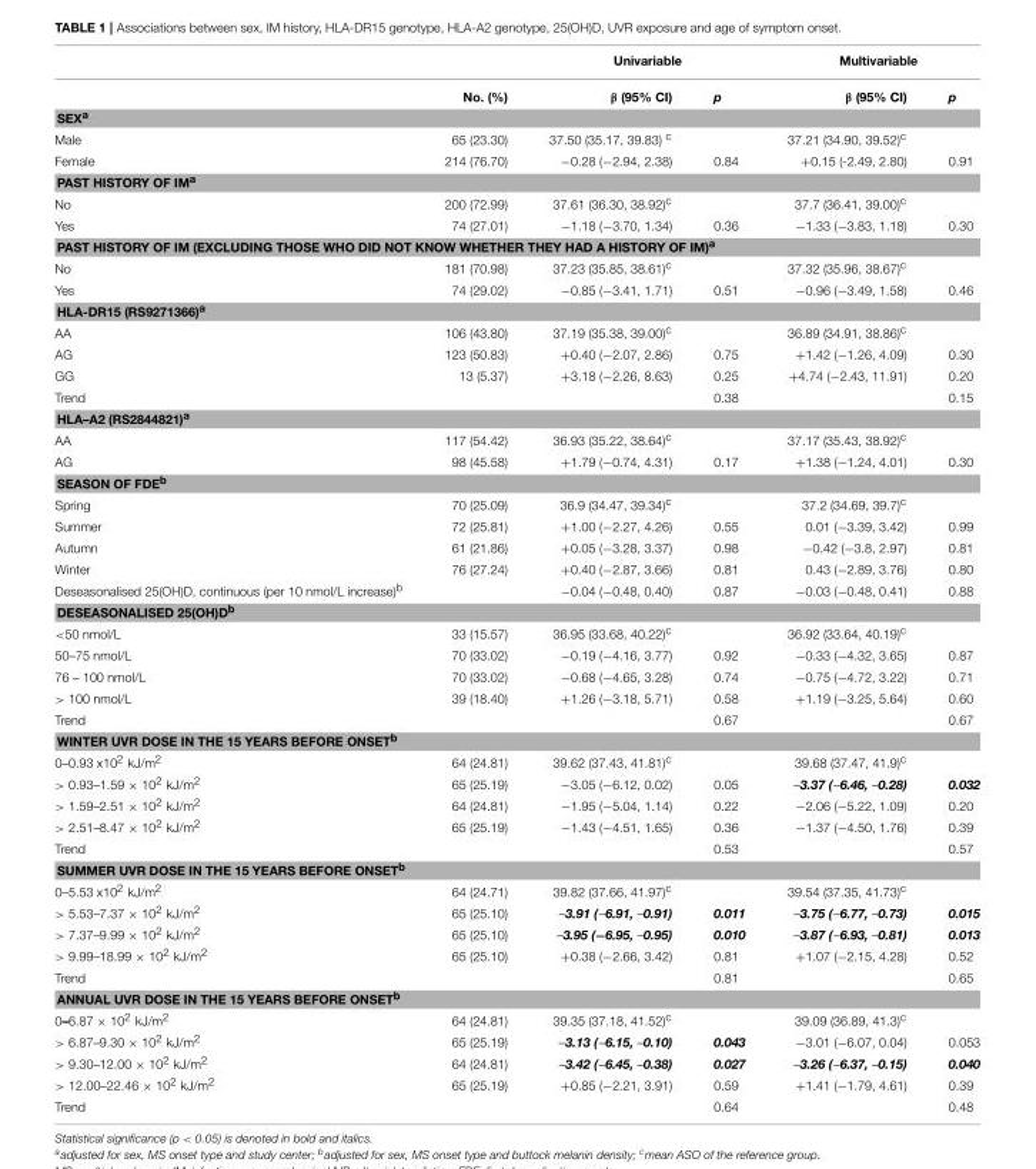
<table><thead><tr><td rowspan="2"></td><td rowspan="2">No. (%)</td><td colspan="2">Univariable</td><td colspan="2">Multivariable</td></tr><tr><td>β (95% CI)</td><td>p</td><td>β (95% CI)</td><td>p</td></tr></thead><tbody><tr><td colspan="6">SEX<sup>a</sup></td></tr><tr><td>Male</td><td>65 (23.30)</td><td>37.50 (35.17, 39.83) <sup>c</sup></td><td></td><td>37.21 (34.90, 39.52)<sup>c</sup></td><td></td></tr><tr><td>Female</td><td>214 (76.70)</td><td>−0.28 (−2.94, 2.38)</td><td>0.84</td><td>+0.15 (-2.49, 2.80)</td><td>0.91</td></tr><tr><td colspan="6">PAST HISTORY OF IM<sup>a</sup></td></tr><tr><td>No</td><td>200 (72.99)</td><td>37.61 (36.30, 38.92)<sup>c</sup></td><td></td><td>37.7 (36.41, 39.00)<sup>c</sup></td><td></td></tr><tr><td>Yes</td><td>74 (27.01)</td><td>−1.18 (−3.70, 1.34)</td><td>0.36</td><td>−1.33 (−3.83, 1.18)</td><td>0.30</td></tr><tr><td colspan="6">PAST HISTORY OF IM (EXCLUDING THOSE WHO DID NOT KNOW WHETHER THEY HAD A HISTORY OF IM)<sup>a</sup></td></tr><tr><td>No</td><td>181 (70.98)</td><td>37.23 (35.85, 38.61)<sup>c</sup></td><td></td><td>37.32 (35.96, 38.67)<sup>c</sup></td><td></td></tr><tr><td>Yes</td><td>74 (29.02)</td><td>−0.85 (−3.41, 1.71)</td><td>0.51</td><td>−0.96 (−3.49, 1.58)</td><td>0.46</td></tr><tr><td colspan="6">HLA-DR15 (RS9271366)<sup>a</sup></td></tr><tr><td>AA</td><td>106 (43.80)</td><td>37.19 (35.38, 39.00)<sup>c</sup></td><td></td><td>36.89 (34.91, 38.86)<sup>c</sup></td><td></td></tr><tr><td>AG</td><td>123 (50.83)</td><td>+0.40 (−2.07, 2.86)</td><td>0.75</td><td>+1.42 (−1.26, 4.09)</td><td>0.30</td></tr><tr><td>GG</td><td>13 (5.37)</td><td>+3.18 (−2.26, 8.63)</td><td>0.25</td><td>+4.74 (−2.43, 11.91)</td><td>0.20</td></tr><tr><td>Trend</td><td></td><td></td><td>0.38</td><td></td><td>0.15</td></tr><tr><td colspan="6">HLA–A2 (RS2844821)<sup>a</sup></td></tr><tr><td>AA</td><td>117 (54.42)</td><td>36.93 (35.22, 38.64)<sup>c</sup></td><td></td><td>37.17 (35.43, 38.92)<sup>c</sup></td><td></td></tr><tr><td>AG</td><td>98 (45.58)</td><td>+1.79 (−0.74, 4.31)</td><td>0.17</td><td>+1.38 (−1.24, 4.01)</td><td>0.30</td></tr><tr><td colspan="6">SEASON OF FDE<sup>b</sup></td></tr><tr><td>Spring</td><td>70 (25.09)</td><td>36.9 (34.47, 39.34)<sup>c</sup></td><td></td><td>37.2 (34.69, 39.7)<sup>c</sup></td><td></td></tr><tr><td>Summer</td><td>72 (25.81)</td><td>+1.00 (−2.27, 4.26)</td><td>0.55</td><td>0.01 (−3.39, 3.42)</td><td>0.99</td></tr><tr><td>Autumn</td><td>61 (21.86)</td><td>+0.05 (−3.28, 3.37)</td><td>0.98</td><td>−0.42 (−3.8, 2.97)</td><td>0.81</td></tr><tr><td>Winter</td><td>76 (27.24)</td><td>+0.40 (−2.87, 3.66)</td><td>0.81</td><td>0.43 (−2.89, 3.76)</td><td>0.80</td></tr><tr><td>Deseasonalised 25(OH)D, continuous (per 10 nmol/L increase)<sup>b</sup></td><td></td><td>−0.04 (−0.48, 0.40)</td><td>0.87</td><td>−0.03 (−0.48, 0.41)</td><td>0.88</td></tr><tr><td colspan="6">DESEASONALISED 25(OH)D<sup>b</sup></td></tr><tr><td>&lt;50 nmol/L</td><td>33 (15.57)</td><td>36.95 (33.68, 40.22)<sup>c</sup></td><td></td><td>36.92 (33.64, 40.19)<sup>c</sup></td><td></td></tr><tr><td>50–75 nmol/L</td><td>70 (33.02)</td><td>−0.19 (−4.16, 3.77)</td><td>0.92</td><td>−0.33 (−4.32, 3.65)</td><td>0.87</td></tr><tr><td>76 – 100 nmol/L</td><td>70 (33.02)</td><td>−0.68 (−4.65, 3.28)</td><td>0.74</td><td>−0.75 (−4.72, 3.22)</td><td>0.71</td></tr><tr><td>&gt; 100 nmol/L</td><td>39 (18.40)</td><td>+1.26 (−3.18, 5.71)</td><td>0.58</td><td>+1.19 (−3.25, 5.64)</td><td>0.60</td></tr><tr><td>Trend</td><td></td><td></td><td>0.67</td><td></td><td>0.67</td></tr><tr><td colspan="6">WINTER UVR DOSE IN THE 15 YEARS BEFORE ONSET<sup>b</sup></td></tr><tr><td>0–0.93 x10<sup>2</sup> kJ/m<sup>2</sup></td><td>64 (24.81)</td><td>39.62 (37.43, 41.81)<sup>c</sup></td><td></td><td>39.68 (37.47, 41.9)<sup>c</sup></td><td></td></tr><tr><td>&gt; 0.93–1.59 × 10<sup>2</sup> kJ/m<sup>2</sup></td><td>65 (25.19)</td><td>−3.05 (−6.12, 0.02)</td><td>0.05</td><td>–3.37 (–6.46, –0.28)</td><td>0.032</td></tr><tr><td>&gt; 1.59–2.51 × 10<sup>2</sup> kJ/m<sup>2</sup></td><td>64 (24.81)</td><td>−1.95 (−5.04, 1.14)</td><td>0.22</td><td>−2.06 (−5.22, 1.09)</td><td>0.20</td></tr><tr><td>&gt; 2.51–8.47 × 10<sup>2</sup> kJ/m<sup>2</sup></td><td>65 (25.19)</td><td>−1.43 (−4.51, 1.65)</td><td>0.36</td><td>−1.37 (−4.50, 1.76)</td><td>0.39</td></tr><tr><td>Trend</td><td></td><td></td><td>0.53</td><td></td><td>0.57</td></tr><tr><td colspan="6">SUMMER UVR DOSE IN THE 15 YEARS BEFORE ONSET<sup>b</sup></td></tr><tr><td>0–5.53 x10<sup>2</sup> kJ/m<sup>2</sup></td><td>64 (24.71)</td><td>39.82 (37.66, 41.97)<sup>c</sup></td><td></td><td>39.54 (37.35, 41.73)<sup>c</sup></td><td></td></tr><tr><td>&gt; 5.53–7.37 × 10<sup>2</sup> kJ/m<sup>2</sup></td><td>65 (25.10)</td><td>–3.91 (–6.91, –0.91)</td><td>0.011</td><td>–3.75 (–6.77, –0.73)</td><td>0.015</td></tr><tr><td>&gt; 7.37–9.99 × 10<sup>2</sup> kJ/m<sup>2</sup></td><td>65 (25.10)</td><td>–3.95 (−6.95, –0.95)</td><td>0.010</td><td>–3.87 (–6.93, –0.81)</td><td>0.013</td></tr><tr><td>&gt; 9.99–18.99 × 10<sup>2</sup> kJ/m<sup>2</sup></td><td>65 (25.10)</td><td>+0.38 (−2.66, 3.42)</td><td>0.81</td><td>+1.07 (−2.15, 4.28)</td><td>0.52</td></tr><tr><td>Trend</td><td></td><td></td><td>0.81</td><td></td><td>0.65</td></tr><tr><td colspan="6">ANNUAL UVR DOSE IN THE 15 YEARS BEFORE ONSET<sup>b</sup></td></tr><tr><td>0–6.87 × 10<sup>2</sup> kJ/m<sup>2</sup></td><td>64 (24.81)</td><td>39.35 (37.18, 41.52)<sup>c</sup></td><td></td><td>39.09 (36.89, 41.3)<sup>c</sup></td><td></td></tr><tr><td>&gt; 6.87–9.30 × 10<sup>2</sup> kJ/m<sup>2</sup></td><td>65 (25.19)</td><td>–3.13 (–6.15, –0.10)</td><td>0.043</td><td>−3.01 (−6.07, 0.04)</td><td>0.053</td></tr><tr><td>&gt; 9.30–12.00 × 10<sup>2</sup> kJ/m<sup>2</sup></td><td>64 (24.81)</td><td>–3.42 (–6.45, –0.38)</td><td>0.027</td><td>–3.26 (–6.37, –0.15)</td><td>0.040</td></tr><tr><td>&gt; 12.00–22.46 × 10<sup>2</sup> kJ/m<sup>2</sup></td><td>65 (25.19)</td><td>+0.85 (−2.21, 3.91)</td><td>0.59</td><td>+1.41 (−1.79, 4.61)</td><td>0.39</td></tr><tr><td>Trend</td><td></td><td></td><td>0.64</td><td></td><td>0.48</td></tr></tbody></table>